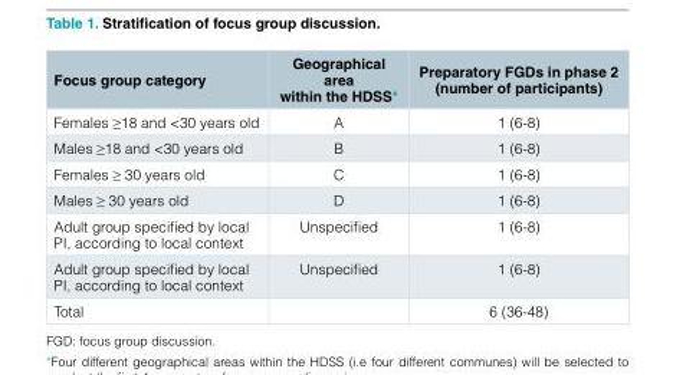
<table><thead><tr><td>Focus group category</td><td>Geographical area within the HDSS*</td><td>Preparatory FGDs in phase 2 (number of participants)</td></tr></thead><tbody><tr><td>Females ≥18 and &lt;30 years old</td><td>A</td><td>1 (6-8)</td></tr><tr><td>Males ≥18 and &lt;30 years old</td><td>B</td><td>1 (6-8)</td></tr><tr><td>Females ≥ 30 years old</td><td>C</td><td>1 (6-8)</td></tr><tr><td>Males ≥ 30 years old</td><td>D</td><td>1 (6-8)</td></tr><tr><td>Adult group specified by local PI, according to local context</td><td>Unspecified</td><td>1 (6-8)</td></tr><tr><td>Adult group specified by local PI, according to local context</td><td>Unspecified</td><td>1 (6-8)</td></tr><tr><td>Total</td><td></td><td>6 (36-48)</td></tr></tbody></table>